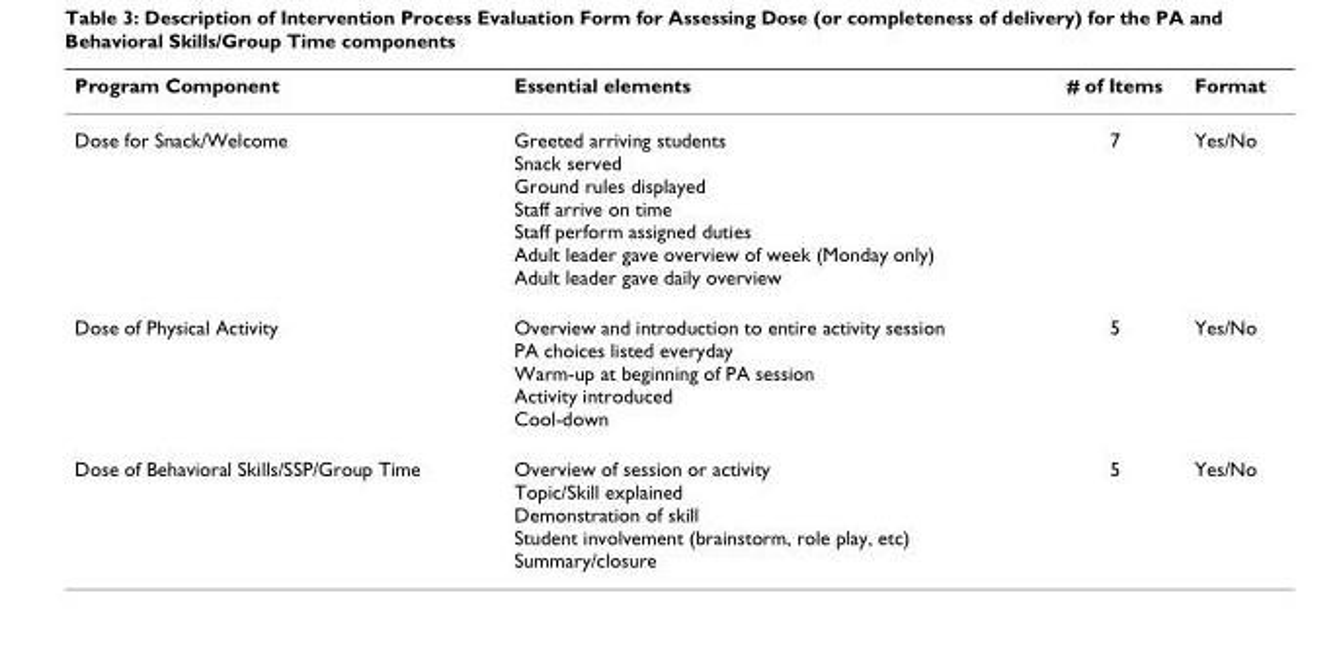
<table><thead><tr><td>Program Component</td><td>Essential elements</td><td># of Items</td><td>Format</td></tr></thead><tbody><tr><td>Dose for Snack/Welcome</td><td>Greeted arriving students Snack served Ground rules displayed Staff arrive on time Staff perform assigned duties Adult leader gave overview of week (Monday only) Adult leader gave daily overview</td><td>7</td><td>Yes/No</td></tr><tr><td>Dose of Physical Activity</td><td>Overview and introduction to entire activity session PA choices listed everyday Warm-up at beginning of PA session Activity introduced Cool-down</td><td>5</td><td>Yes/No</td></tr><tr><td>Dose of Behavioral Skills/SSP/Group Time</td><td>Overview of session or activity Topic/Skill explained Demonstration of skill Student involvement (brainstorm, role play, etc) Summary/closure</td><td>5</td><td>Yes/No</td></tr></tbody></table>